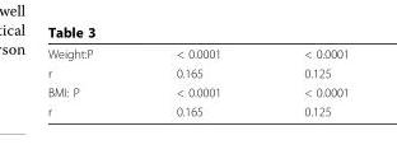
<table><tbody><tr><td>Weight:P</td><td>&lt; 0.0001</td><td>&lt; 0.0001</td></tr><tr><td>r</td><td>0.165</td><td>0.125</td></tr><tr><td>BMI: P</td><td>&lt; 0.0001</td><td>&lt; 0.0001</td></tr><tr><td>r</td><td>0.165</td><td>0.125</td></tr></tbody></table>